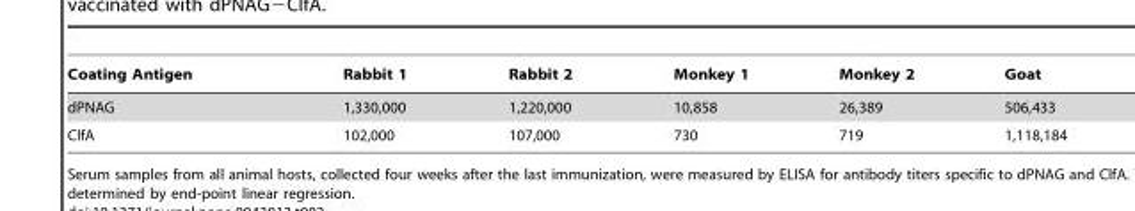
<table><thead><tr><td>Coating Antigen</td><td>Rabbit 1</td><td>Rabbit 2</td><td>Monkey 1</td><td>Monkey 2</td><td>Goat</td></tr></thead><tbody><tr><td>dPNAG</td><td>1,330,000</td><td>1,220,000</td><td>10,858</td><td>26,389</td><td>506,433</td></tr><tr><td>ClfA</td><td>102,000</td><td>107,000</td><td>730</td><td>719</td><td>1,118,184</td></tr></tbody></table>